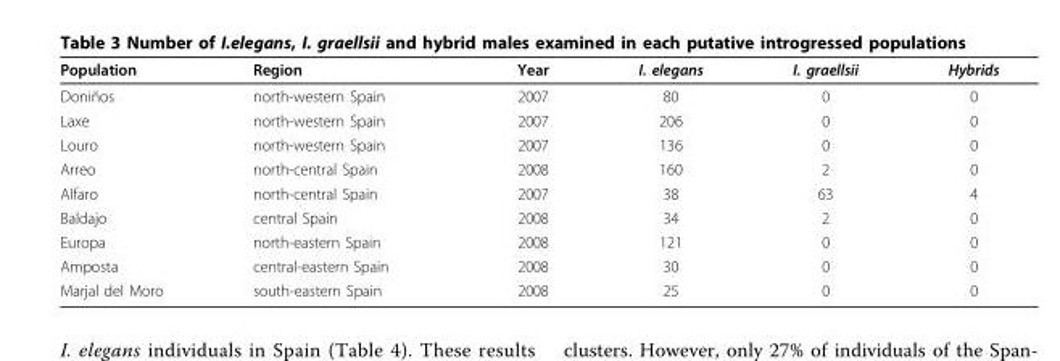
<table><thead><tr><td>Population</td><td>Region</td><td>Year</td><td>I. elegans</td><td>I. graellsii</td><td>Hybrids</td></tr></thead><tbody><tr><td>Doniños</td><td>north-western Spain</td><td>2007</td><td>80</td><td>0</td><td>0</td></tr><tr><td>Laxe</td><td>north-western Spain</td><td>2007</td><td>206</td><td>0</td><td>0</td></tr><tr><td>Louro</td><td>north-western Spain</td><td>2007</td><td>136</td><td>0</td><td>0</td></tr><tr><td>Arreo</td><td>north-central Spain</td><td>2008</td><td>160</td><td>2</td><td>0</td></tr><tr><td>Alfaro</td><td>north-central Spain</td><td>2007</td><td>38</td><td>63</td><td>4</td></tr><tr><td>Baldajo</td><td>central Spain</td><td>2008</td><td>34</td><td>2</td><td>0</td></tr><tr><td>Europa</td><td>north-eastern Spain</td><td>2008</td><td>121</td><td>0</td><td>0</td></tr><tr><td>Amposta</td><td>central-eastern Spain</td><td>2008</td><td>30</td><td>0</td><td>0</td></tr><tr><td>Marjal del Moro</td><td>south-eastern Spain</td><td>2008</td><td>25</td><td>0</td><td>0</td></tr></tbody></table>